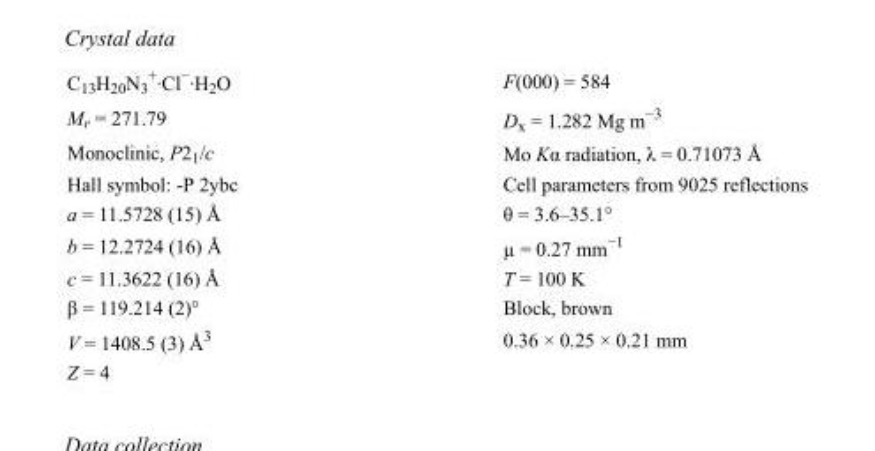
<table><tbody><tr><td>C<sub>13</sub>H<sub>20</sub>N<sub>3</sub> <sup>+</sup>·Cl<sup>−</sup>·H<sub>2</sub>O</td><td>F(000) = 584</td></tr><tr><td>M<sub>r</sub> = 271.79</td><td>D<sub>x</sub> = 1.282 Mg m<sup>−3</sup></td></tr><tr><td>Monoclinic, P2<sub>1</sub>/c</td><td>Mo Kα radiation, λ = 0.71073 Å</td></tr><tr><td>Hall symbol: -P 2ybc</td><td>Cell parameters from 9025 reflections</td></tr><tr><td>a = 11.5728 (15) Å</td><td>θ = 3.6–35.1°</td></tr><tr><td>b = 12.2724 (16) Å</td><td>µ = 0.27 mm<sup>−1</sup></td></tr><tr><td>c = 11.3622 (16) Å</td><td>T = 100 K</td></tr><tr><td>β = 119.214 (2)°</td><td>Block, brown</td></tr><tr><td>V = 1408.5 (3) Å<sup>3</sup></td><td>0.36 × 0.25 × 0.21 mm</td></tr><tr><td>Z = 4</td><td></td></tr></tbody></table>